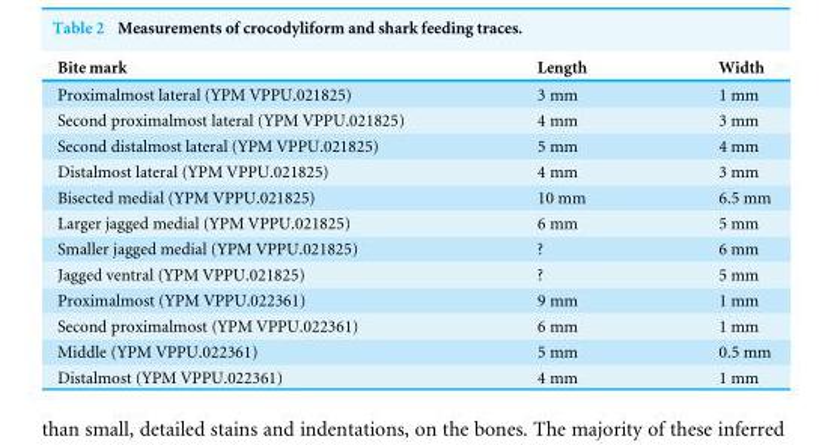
<table><thead><tr><td>Bite mark</td><td>Length</td><td>Width</td></tr></thead><tbody><tr><td>Proximalmost lateral (YPM VPPU.021825)</td><td>3 mm</td><td>1 mm</td></tr><tr><td>Second proximalmost lateral (YPM VPPU.021825)</td><td>4 mm</td><td>3 mm</td></tr><tr><td>Second distalmost lateral (YPM VPPU.021825)</td><td>5 mm</td><td>4 mm</td></tr><tr><td>Distalmost lateral (YPM VPPU.021825)</td><td>4 mm</td><td>3 mm</td></tr><tr><td>Bisected medial (YPM VPPU.021825)</td><td>10 mm</td><td>6.5 mm</td></tr><tr><td>Larger jagged medial (YPM VPPU.021825)</td><td>6 mm</td><td>5 mm</td></tr><tr><td>Smaller jagged medial (YPM VPPU.021825)</td><td>?</td><td>6 mm</td></tr><tr><td>Jagged ventral (YPM VPPU.021825)</td><td>?</td><td>5 mm</td></tr><tr><td>Proximalmost (YPM VPPU.022361)</td><td>9 mm</td><td>1 mm</td></tr><tr><td>Second proximalmost (YPM VPPU.022361)</td><td>6 mm</td><td>1 mm</td></tr><tr><td>Middle (YPM VPPU.022361)</td><td>5 mm</td><td>0.5 mm</td></tr><tr><td>Distalmost (YPM VPPU.022361)</td><td>4 mm</td><td>1 mm</td></tr></tbody></table>